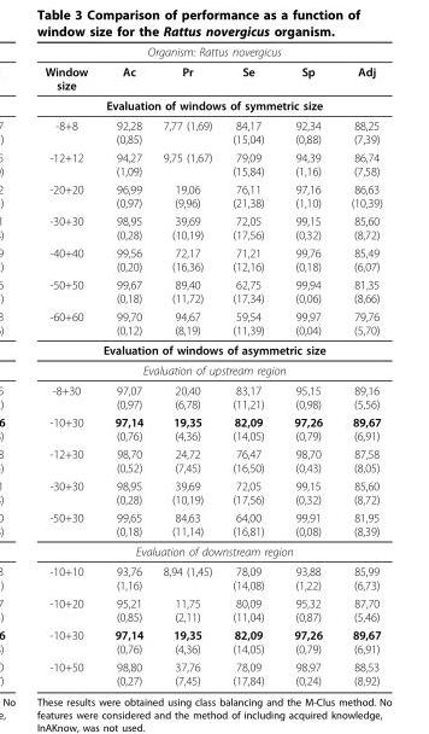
<table><thead><tr><td colspan="6">Organism: Rattus novergicus</td></tr><tr><td>Window size</td><td>Ac</td><td>Pr</td><td>Se</td><td>Sp</td><td>Adj</td></tr></thead><tbody><tr><td colspan="6">Evaluation of windows of symmetric size</td></tr><tr><td>-8+8</td><td>92,28 (0,85)</td><td>7,77 (1,69)</td><td>84,17 (15,04)</td><td>92,34 (0,88)</td><td>88,25 (7,39)</td></tr><tr><td>-12+12</td><td>94,27 (1,09)</td><td>9,75 (1,67)</td><td>79,09 (15,84)</td><td>94,39 (1,16)</td><td>86,74 (7,58)</td></tr><tr><td>-20+20</td><td>96,99 (0,97)</td><td>19,06 (9,96)</td><td>76,11 (21,38)</td><td>97,16 (1,10)</td><td>86,63 (10,39)</td></tr><tr><td>-30+30</td><td>98,95 (0,28)</td><td>39,69 (10,19)</td><td>72,05 (17,56)</td><td>99,15 (0,32)</td><td>85,60 (8,72)</td></tr><tr><td>-40+40</td><td>99,56 (0,20)</td><td>72,17 (16,36)</td><td>71,21 (12,16)</td><td>99,76 (0,18)</td><td>85,49 (6,07)</td></tr><tr><td>-50+50</td><td>99,67 (0,18)</td><td>89,40 (11,72)</td><td>62,75 (17,34)</td><td>99,94 (0,06)</td><td>81,35 (8,66)</td></tr><tr><td>-60+60</td><td>99,70 (0,12)</td><td>94,67 (8,19)</td><td>59,54 (11,39)</td><td>99,97 (0,04)</td><td>79,76 (5,70)</td></tr><tr><td colspan="6">Evaluation of windows of asymmetric size</td></tr><tr><td colspan="6">Evaluation of upstream region</td></tr><tr><td>-8+30</td><td>97,07 (0,97)</td><td>20,40 (6,78)</td><td>83,17 (11,21)</td><td>95,15 (0,98)</td><td>89,16 (5,56)</td></tr><tr><td>-10+30</td><td>97,14 (0,76)</td><td>19,35 (4,36)</td><td>82,09 (14,05)</td><td>97,26 (0,79)</td><td>89,67 (6,91)</td></tr><tr><td>-12+30</td><td>98,70 (0,52)</td><td>24,72 (7,45)</td><td>76,47 (16,50)</td><td>98,70 (0,43)</td><td>87,58 (8,05)</td></tr><tr><td>-30+30</td><td>98,95 (0,28)</td><td>39,69 (10,19)</td><td>72,05 (17,56)</td><td>99,15 (0,32)</td><td>85,60 (8,72)</td></tr><tr><td>-50+30</td><td>99,65 (0,18)</td><td>84,63 (11,14)</td><td>64,00 (16,81)</td><td>99,91 (0,08)</td><td>81,95 (8,39)</td></tr><tr><td colspan="6">Evaluation of downstream region</td></tr><tr><td>-10+10</td><td>93,76 (1,16)</td><td>8,94 (1,45)</td><td>78,09 (14,08)</td><td>93,88 (1,22)</td><td>85,99 (6,73)</td></tr><tr><td>-10+20</td><td>95,21 (0,85)</td><td>11,75 (2,11)</td><td>80,09 (11,04)</td><td>95,32 (0,87)</td><td>87,70 (5,46)</td></tr><tr><td>-10+30</td><td>97,14 (0,76)</td><td>19,35 (4,36)</td><td>82,09 (14,05)</td><td>97,26 (0,79)</td><td>89,67 (6,91)</td></tr><tr><td>-10+50</td><td>98,80 (0,27)</td><td>37,76 (7,45)</td><td>78,09 (17,84)</td><td>98,97 (0,24)</td><td>88,53 (8,92)</td></tr></tbody></table>